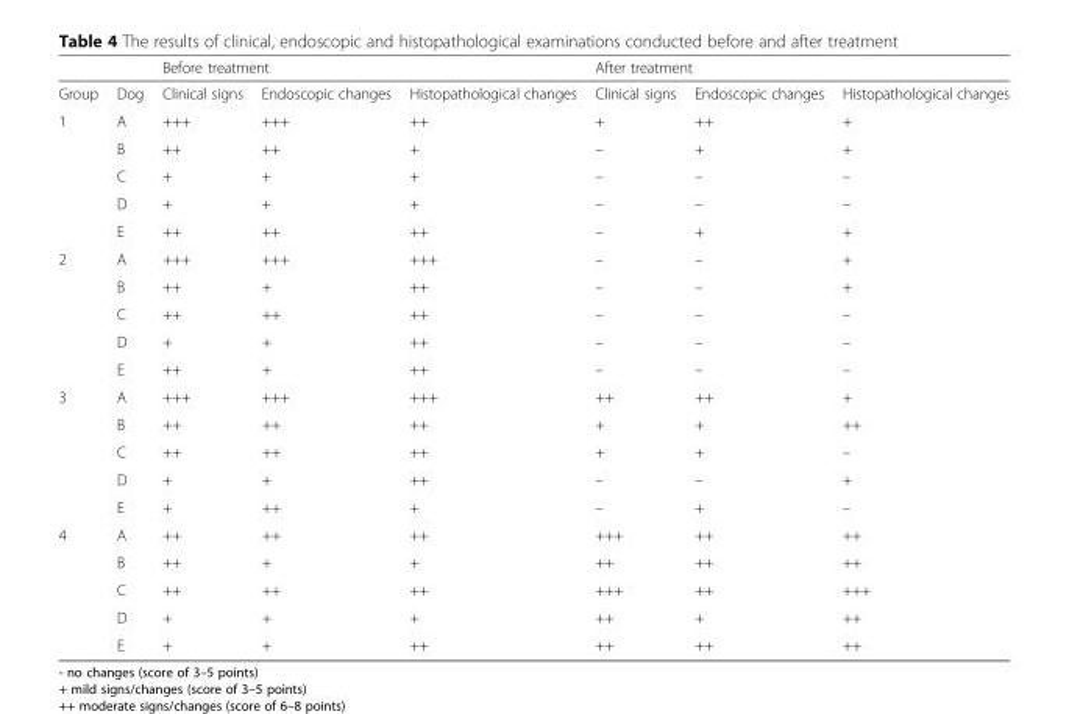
<table><thead><tr><td rowspan="2">Group</td><td rowspan="2">Dog</td><td colspan="3">Before treatment</td><td colspan="3">After treatment</td></tr><tr><td>Clinical signs</td><td>Endoscopic changes</td><td>Histopathological changes</td><td>Clinical signs</td><td>Endoscopic changes</td><td>Histopathological changes</td></tr></thead><tbody><tr><td rowspan="5">1</td><td>A</td><td>+++</td><td>+++</td><td>++</td><td>+</td><td>++</td><td>+</td></tr><tr><td>B</td><td>++</td><td>++</td><td>+</td><td>–</td><td>+</td><td>+</td></tr><tr><td>C</td><td>+</td><td>+</td><td>+</td><td>–</td><td>–</td><td>–</td></tr><tr><td>D</td><td>+</td><td>+</td><td>+</td><td>–</td><td>–</td><td>–</td></tr><tr><td>E</td><td>++</td><td>++</td><td>++</td><td>–</td><td>+</td><td>+</td></tr><tr><td rowspan="5">2</td><td>A</td><td>+++</td><td>+++</td><td>+++</td><td>–</td><td>–</td><td>+</td></tr><tr><td>B</td><td>++</td><td>+</td><td>++</td><td>–</td><td>–</td><td>+</td></tr><tr><td>C</td><td>++</td><td>++</td><td>++</td><td>–</td><td>–</td><td>–</td></tr><tr><td>D</td><td>+</td><td>+</td><td>++</td><td>–</td><td>–</td><td>–</td></tr><tr><td>E</td><td>++</td><td>+</td><td>++</td><td>–</td><td>–</td><td>–</td></tr><tr><td rowspan="5">3</td><td>A</td><td>+++</td><td>+++</td><td>+++</td><td>++</td><td>++</td><td>+</td></tr><tr><td>B</td><td>++</td><td>++</td><td>++</td><td>+</td><td>+</td><td>++</td></tr><tr><td>C</td><td>++</td><td>++</td><td>++</td><td>+</td><td>+</td><td>–</td></tr><tr><td>D</td><td>+</td><td>+</td><td>++</td><td>–</td><td>–</td><td>+</td></tr><tr><td>E</td><td>+</td><td>++</td><td>+</td><td>–</td><td>+</td><td>–</td></tr><tr><td rowspan="5">4</td><td>A</td><td>++</td><td>++</td><td>++</td><td>+++</td><td>++</td><td>++</td></tr><tr><td>B</td><td>++</td><td>+</td><td>+</td><td>++</td><td>++</td><td>++</td></tr><tr><td>C</td><td>++</td><td>++</td><td>++</td><td>+++</td><td>++</td><td>+++</td></tr><tr><td>D</td><td>+</td><td>+</td><td>+</td><td>++</td><td>+</td><td>++</td></tr><tr><td>E</td><td>+</td><td>+</td><td>++</td><td>++</td><td>++</td><td>++</td></tr></tbody></table>